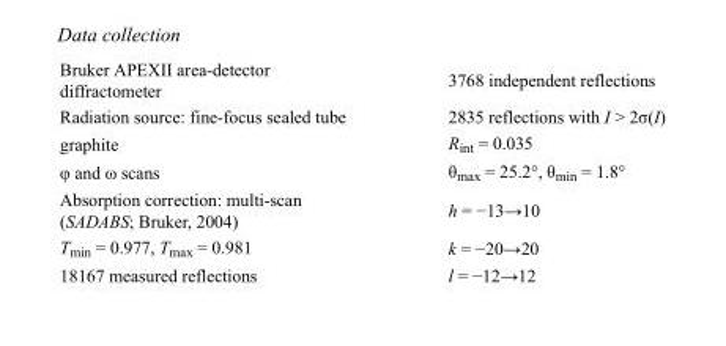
<table><tbody><tr><td>Bruker APEXII area-detector diffractometer</td><td>3768 independent reflections</td></tr><tr><td>Radiation source: fine-focus sealed tube</td><td>2835 reflections with I &gt; 2σ(I)</td></tr><tr><td>graphite</td><td>R<sub>int</sub> = 0.035</td></tr><tr><td>φ and ω scans</td><td>θ<sub>max</sub> = 25.2°, θ<sub>min</sub> = 1.8°</td></tr><tr><td>Absorption correction: multi-scan (SADABS; Bruker, 2004)</td><td>h = −13→10</td></tr><tr><td>T<sub>min</sub> = 0.977, T<sub>max</sub> = 0.981</td><td>k = −20→20</td></tr><tr><td>18167 measured reflections</td><td>l = −12→12</td></tr></tbody></table>